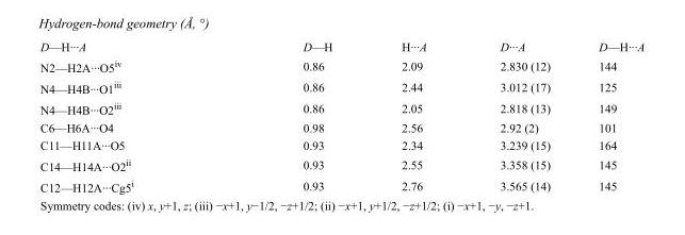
<table><tbody><tr><td>D—H···A</td><td>D—H</td><td>H···A</td><td>D···A</td><td>D—H···A</td></tr><tr><td>N2—H2A···O5<sup>iv</sup></td><td>0.86</td><td>2.09</td><td>2.830 (12)</td><td>144</td></tr><tr><td>N4—H4B···O1<sup>iii</sup></td><td>0.86</td><td>2.44</td><td>3.012 (17)</td><td>125</td></tr><tr><td>N4—H4B···O2<sup>iii</sup></td><td>0.86</td><td>2.05</td><td>2.818 (13)</td><td>149</td></tr><tr><td>C6—H6A···O4</td><td>0.98</td><td>2.56</td><td>2.92 (2)</td><td>101</td></tr><tr><td>C11—H11A···O5</td><td>0.93</td><td>2.34</td><td>3.239 (15)</td><td>164</td></tr><tr><td>C14—H14A···O2<sup>ii</sup></td><td>0.93</td><td>2.55</td><td>3.358 (15)</td><td>145</td></tr><tr><td>C12—H12A···Cg5<sup>i</sup></td><td>0.93</td><td>2.76</td><td>3.565 (14)</td><td>145</td></tr></tbody></table>